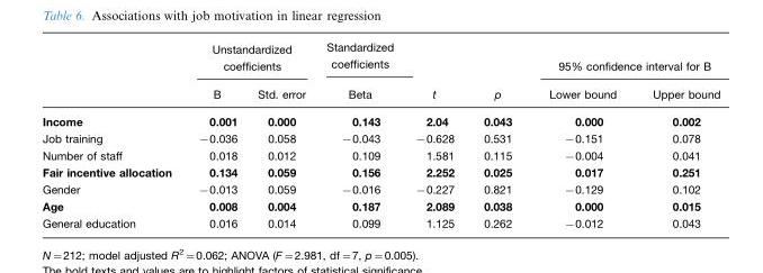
<table><thead><tr><td rowspan="2"></td><td colspan="2">Unstandardized coefficients</td><td rowspan="2">Standardized coefficients Beta</td><td rowspan="2">t</td><td rowspan="2">p</td><td colspan="2">95% confidence interval for B</td></tr><tr><td>B</td><td>Std. error</td><td>Lower bound</td><td>Upper bound</td></tr></thead><tbody><tr><td>Income</td><td>0.001</td><td>0.000</td><td>0.143</td><td>2.04</td><td>0.043</td><td>0.000</td><td>0.002</td></tr><tr><td>Job training</td><td>−0.036</td><td>0.058</td><td>−0.043</td><td>−0.628</td><td>0.531</td><td>−0.151</td><td>0.078</td></tr><tr><td>Number of staff</td><td>0.018</td><td>0.012</td><td>0.109</td><td>1.581</td><td>0.115</td><td>−0.004</td><td>0.041</td></tr><tr><td>Fair incentive allocation</td><td>0.134</td><td>0.059</td><td>0.156</td><td>2.252</td><td>0.025</td><td>0.017</td><td>0.251</td></tr><tr><td>Gender</td><td>−0.013</td><td>0.059</td><td>−0.016</td><td>−0.227</td><td>0.821</td><td>−0.129</td><td>0.102</td></tr><tr><td>Age</td><td>0.008</td><td>0.004</td><td>0.187</td><td>2.089</td><td>0.038</td><td>0.000</td><td>0.015</td></tr><tr><td>General education</td><td>0.016</td><td>0.014</td><td>0.099</td><td>1.125</td><td>0.262</td><td>−0.012</td><td>0.043</td></tr></tbody></table>